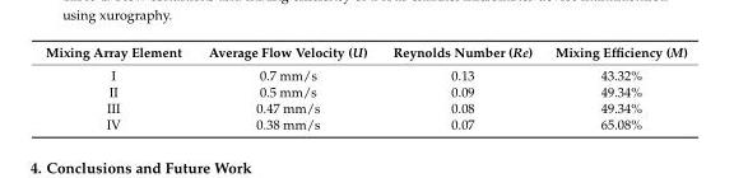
<table><thead><tr><td>Mixing Array Element</td><td>Average Flow Velocity (U)</td><td>Reynolds Number (Re)</td><td>Mixing Efficiency (M)</td></tr></thead><tbody><tr><td>I</td><td>0.7 mm/s</td><td>0.13</td><td>43.32%</td></tr><tr><td>II</td><td>0.5 mm/s</td><td>0.09</td><td>49.34%</td></tr><tr><td>III</td><td>0.47 mm/s</td><td>0.08</td><td>49.34%</td></tr><tr><td>IV</td><td>0.38 mm/s</td><td>0.07</td><td>65.08%</td></tr></tbody></table>